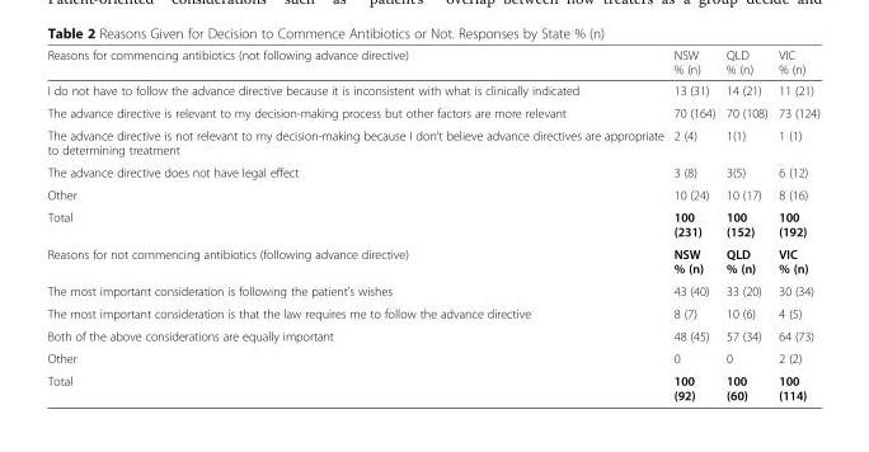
<table><thead><tr><td>Reasons for commencing antibiotics (not following advance directive)</td><td>NSW % (n)</td><td>QLD % (n)</td><td>VIC % (n)</td></tr></thead><tbody><tr><td>I do not have to follow the advance directive because it is inconsistent with what is clinically indicated</td><td>13 (31)</td><td>14 (21)</td><td>11 (21)</td></tr><tr><td>The advance directive is relevant to my decision-making process but other factors are more relevant</td><td>70 (164)</td><td>70 (108)</td><td>73 (124)</td></tr><tr><td>The advance directive is not relevant to my decision-making because I don’t believe advance directives are appropriate to determining treatment</td><td>2 (4)</td><td>1(1)</td><td>1 (1)</td></tr><tr><td>The advance directive does not have legal effect</td><td>3 (8)</td><td>3(5)</td><td>6 (12)</td></tr><tr><td>Other</td><td>10 (24)</td><td>10 (17)</td><td>8 (16)</td></tr><tr><td>Total</td><td>100 (231)</td><td>100 (152)</td><td>100 (192)</td></tr><tr><td>Reasons for not commencing antibiotics (following advance directive)</td><td>NSW % (n)</td><td>QLD % (n)</td><td>VIC % (n)</td></tr><tr><td>The most important consideration is following the patient’s wishes</td><td>43 (40)</td><td>33 (20)</td><td>30 (34)</td></tr><tr><td>The most important consideration is that the law requires me to follow the advance directive</td><td>8 (7)</td><td>10 (6)</td><td>4 (5)</td></tr><tr><td>Both of the above considerations are equally important</td><td>48 (45)</td><td>57 (34)</td><td>64 (73)</td></tr><tr><td>Other</td><td>0</td><td>0</td><td>2 (2)</td></tr><tr><td>Total</td><td>100 (92)</td><td>100 (60)</td><td>100 (114)</td></tr></tbody></table>